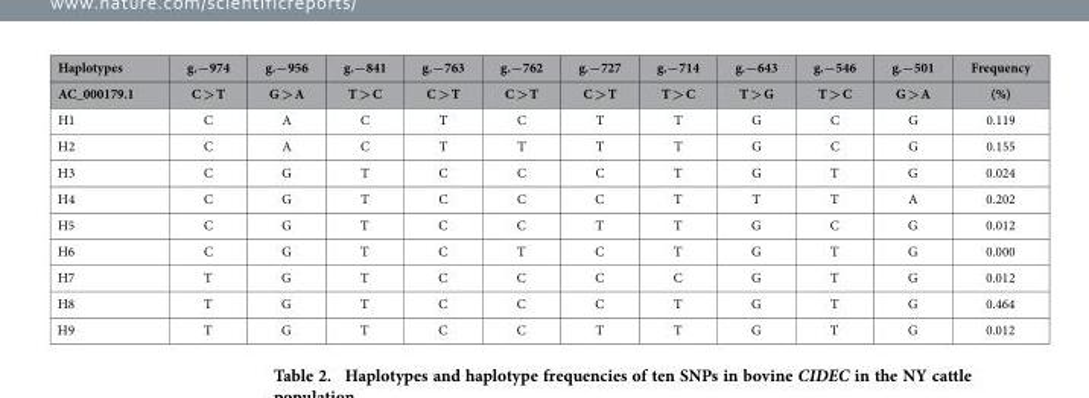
<table><thead><tr><td rowspan="2">Haplotypes AC_000179.1</td><td rowspan="2">g.−974 C &gt; T</td><td rowspan="2">g.−956 G &gt; A</td><td rowspan="2">g.−841 T &gt; C</td><td rowspan="2">g.−763 C &gt; T</td><td rowspan="2">g.−762 C &gt; T</td><td rowspan="2">g.−727 C &gt; T</td><td rowspan="2">g.−714 T &gt; C</td><td rowspan="2">g.−643 T &gt; G</td><td rowspan="2">g.−546 T &gt; C</td><td rowspan="2">g.−501 G &gt; A</td><td rowspan="2">Frequency (%)</td></tr><tr></tr></thead><tbody><tr><td>H1</td><td>C</td><td>A</td><td>C</td><td>T</td><td>C</td><td>T</td><td>T</td><td>G</td><td>C</td><td>G</td><td>0.119</td></tr><tr><td>H2</td><td>C</td><td>A</td><td>C</td><td>T</td><td>T</td><td>T</td><td>T</td><td>G</td><td>C</td><td>G</td><td>0.155</td></tr><tr><td>H3</td><td>C</td><td>G</td><td>T</td><td>C</td><td>C</td><td>C</td><td>T</td><td>G</td><td>T</td><td>G</td><td>0.024</td></tr><tr><td>H4</td><td>C</td><td>G</td><td>T</td><td>C</td><td>C</td><td>C</td><td>T</td><td>T</td><td>T</td><td>A</td><td>0.202</td></tr><tr><td>H5</td><td>C</td><td>G</td><td>T</td><td>C</td><td>C</td><td>T</td><td>T</td><td>G</td><td>C</td><td>G</td><td>0.012</td></tr><tr><td>H6</td><td>C</td><td>G</td><td>T</td><td>C</td><td>T</td><td>C</td><td>T</td><td>G</td><td>T</td><td>G</td><td>0.000</td></tr><tr><td>H7</td><td>T</td><td>G</td><td>T</td><td>C</td><td>C</td><td>C</td><td>C</td><td>G</td><td>T</td><td>G</td><td>0.012</td></tr><tr><td>H8</td><td>T</td><td>G</td><td>T</td><td>C</td><td>C</td><td>C</td><td>T</td><td>G</td><td>T</td><td>G</td><td>0.464</td></tr><tr><td>H9</td><td>T</td><td>G</td><td>T</td><td>C</td><td>C</td><td>T</td><td>T</td><td>G</td><td>T</td><td>G</td><td>0.012</td></tr></tbody></table>